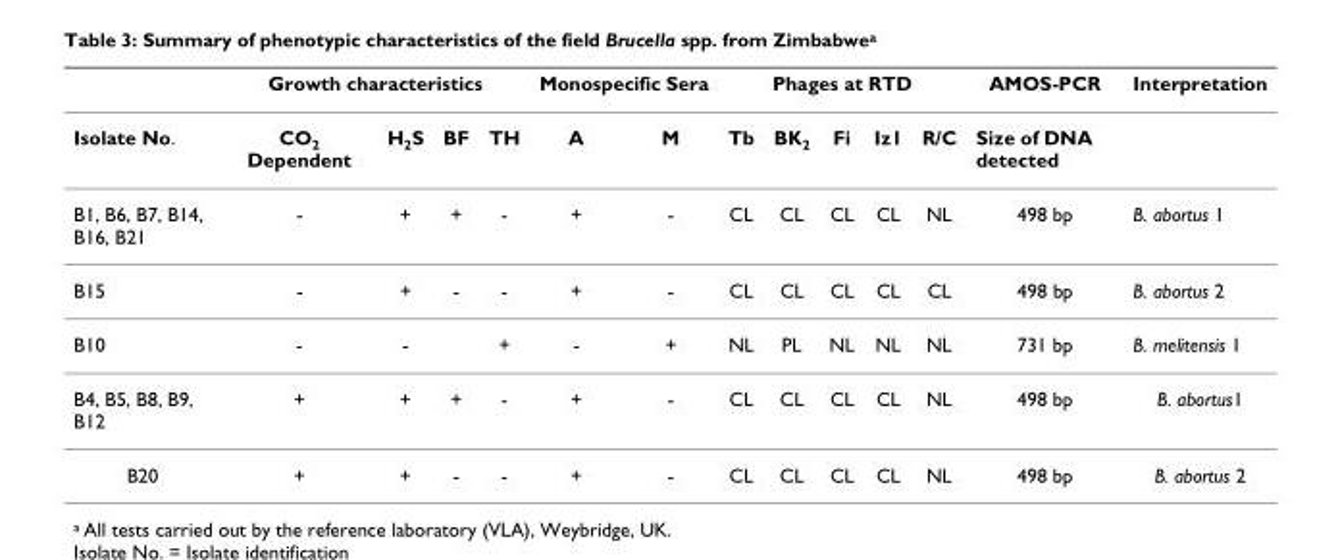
<table><thead><tr><td rowspan="2">Isolate No.</td><td colspan="4">Growth characteristics</td><td colspan="2">Monospecific Sera</td><td colspan="5">Phages at RTD</td><td rowspan="2">AMOS-PCR Size of DNA detected</td><td rowspan="2">Interpretation</td></tr><tr><td>CO2 Dependent</td><td>H2S</td><td>BF</td><td>TH</td><td>A</td><td>M</td><td>Tb</td><td>BK<sub>2</sub></td><td>Fi</td><td>Iz1</td><td>R/C</td></tr></thead><tbody><tr><td>B1, B6, B7, B14, B16, B21</td><td>-</td><td>+</td><td>+</td><td>-</td><td>+</td><td>-</td><td>CL</td><td>CL</td><td>CL</td><td>CL</td><td>NL</td><td>498 bp</td><td>B. abortus 1</td></tr><tr><td>B15</td><td>-</td><td>+</td><td>-</td><td>-</td><td>+</td><td>-</td><td>CL</td><td>CL</td><td>CL</td><td>CL</td><td>CL</td><td>498 bp</td><td>B. abortus 2</td></tr><tr><td>B10</td><td>-</td><td>-</td><td></td><td>+</td><td>-</td><td>+</td><td>NL</td><td>PL</td><td>NL</td><td>NL</td><td>NL</td><td>731 bp</td><td>B. melitensis 1</td></tr><tr><td>B4, B5, B8, B9, B12</td><td>+</td><td>+</td><td>+</td><td>-</td><td>+</td><td>-</td><td>CL</td><td>CL</td><td>CL</td><td>CL</td><td>NL</td><td>498 bp</td><td>B. abortus1</td></tr><tr><td>B20</td><td>+</td><td>+</td><td>-</td><td>-</td><td>+</td><td>-</td><td>CL</td><td>CL</td><td>CL</td><td>CL</td><td>NL</td><td>498 bp</td><td>B. abortus 2</td></tr></tbody></table>